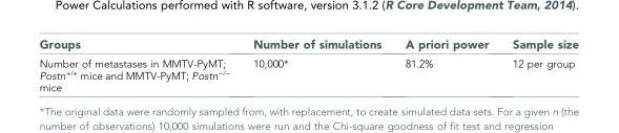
<table><thead><tr><td>Groups</td><td>Number of simulations</td><td>A priori power</td><td>Sample size</td></tr></thead><tbody><tr><td>Number of metastases in MMTV-PyMT; Postn<sup>+/+</sup> mice and MMTV-PyMT; Postn<sup>−/−</sup> mice</td><td>10,000*</td><td>81.2%</td><td>12 per group</td></tr></tbody></table>